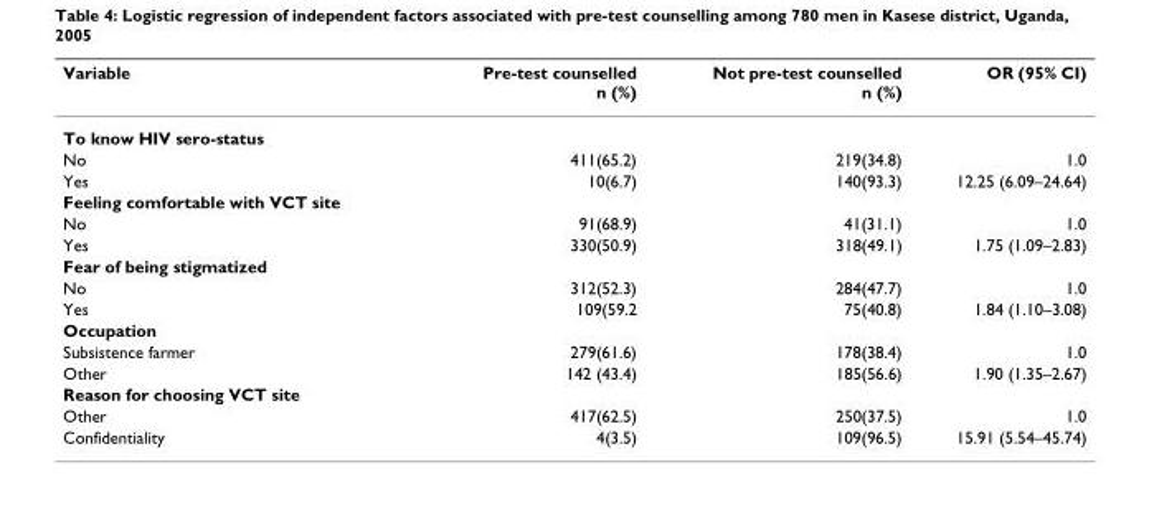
<table><thead><tr><td>Variable</td><td>Pre-test counselled n (%)</td><td>Not pre-test counselled n (%)</td><td>OR (95% CI)</td></tr></thead><tbody><tr><td colspan="4">To know HIV sero-status</td></tr><tr><td>No</td><td>411(65.2)</td><td>219(34.8)</td><td>1.0</td></tr><tr><td>Yes</td><td>10(6.7)</td><td>140(93.3)</td><td>12.25 (6.09–24.64)</td></tr><tr><td colspan="4">Feeling comfortable with VCT site</td></tr><tr><td>No</td><td>91(68.9)</td><td>41(31.1)</td><td>1.0</td></tr><tr><td>Yes</td><td>330(50.9)</td><td>318(49.1)</td><td>1.75 (1.09–2.83)</td></tr><tr><td colspan="4">Fear of being stigmatized</td></tr><tr><td>No</td><td>312(52.3)</td><td>284(47.7)</td><td>1.0</td></tr><tr><td>Yes</td><td>109(59.2</td><td>75(40.8)</td><td>1.84 (1.10–3.08)</td></tr><tr><td colspan="4">Occupation</td></tr><tr><td>Subsistence farmer</td><td>279(61.6)</td><td>178(38.4)</td><td>1.0</td></tr><tr><td>Other</td><td>142 (43.4)</td><td>185(56.6)</td><td>1.90 (1.35–2.67)</td></tr><tr><td colspan="4">Reason for choosing VCT site</td></tr><tr><td>Other</td><td>417(62.5)</td><td>250(37.5)</td><td>1.0</td></tr><tr><td>Confidentiality</td><td>4(3.5)</td><td>109(96.5)</td><td>15.91 (5.54–45.74)</td></tr></tbody></table>